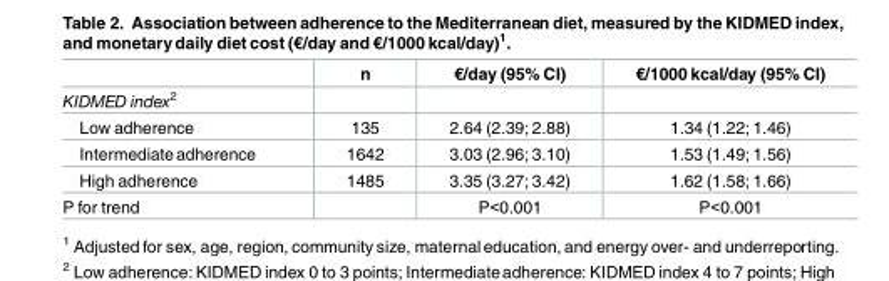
<table><thead><tr><td></td><td>n</td><td>€/day (95% CI)</td><td>€/1000 kcal/day (95% CI)</td></tr></thead><tbody><tr><td colspan="4">KIDMED index<sup>2</sup></td></tr><tr><td>Low adherence</td><td>135</td><td>2.64 (2.39; 2.88)</td><td>1.34 (1.22; 1.46)</td></tr><tr><td>Intermediateadherence</td><td>1642</td><td>3.03 (2.96; 3.10)</td><td>1.53 (1.49; 1.56)</td></tr><tr><td>High adherence</td><td>1485</td><td>3.35 (3.27; 3.42)</td><td>1.62 (1.58; 1.66)</td></tr><tr><td>P for trend</td><td></td><td>P&lt;0.001</td><td>P&lt;0.001</td></tr></tbody></table>